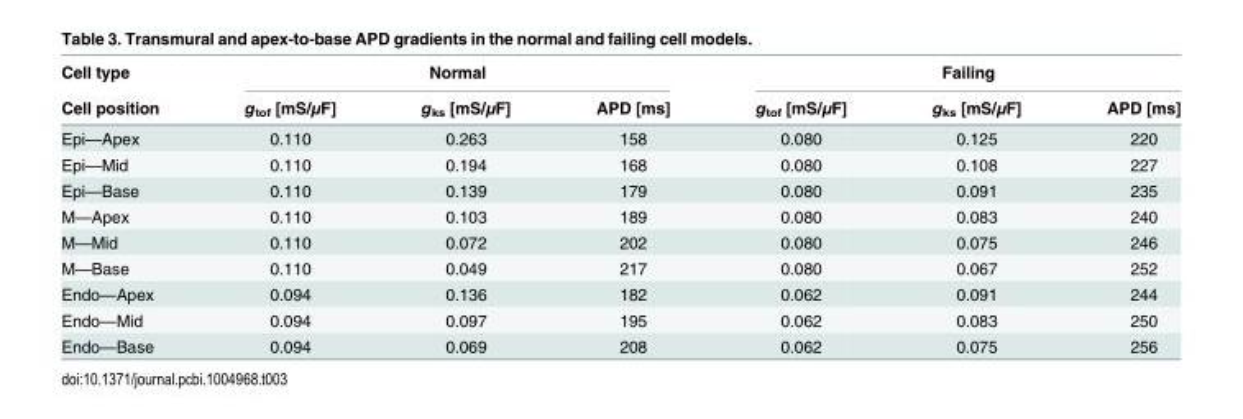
<table><thead><tr><td rowspan="2">Cell type Cell position</td><td colspan="3">Normal</td><td colspan="3">Failing</td></tr><tr><td>g<sub>tof</sub> [mS/μF]</td><td>g<sub>ks</sub> [mS/μF]</td><td>APD [ms]</td><td>g<sub>tof</sub> [mS/μF]</td><td>g<sub>ks</sub> [mS/μF]</td><td>APD [ms]</td></tr></thead><tbody><tr><td>Epi—Apex</td><td>0.110</td><td>0.263</td><td>158</td><td>0.080</td><td>0.125</td><td>220</td></tr><tr><td>Epi—Mid</td><td>0.110</td><td>0.194</td><td>168</td><td>0.080</td><td>0.108</td><td>227</td></tr><tr><td>Epi—Base</td><td>0.110</td><td>0.139</td><td>179</td><td>0.080</td><td>0.091</td><td>235</td></tr><tr><td>M—Apex</td><td>0.110</td><td>0.103</td><td>189</td><td>0.080</td><td>0.083</td><td>240</td></tr><tr><td>M—Mid</td><td>0.110</td><td>0.072</td><td>202</td><td>0.080</td><td>0.075</td><td>246</td></tr><tr><td>M—Base</td><td>0.110</td><td>0.049</td><td>217</td><td>0.080</td><td>0.067</td><td>252</td></tr><tr><td>Endo—Apex</td><td>0.094</td><td>0.136</td><td>182</td><td>0.062</td><td>0.091</td><td>244</td></tr><tr><td>Endo—Mid</td><td>0.094</td><td>0.097</td><td>195</td><td>0.062</td><td>0.083</td><td>250</td></tr><tr><td>Endo—Base</td><td>0.094</td><td>0.069</td><td>208</td><td>0.062</td><td>0.075</td><td>256</td></tr></tbody></table>